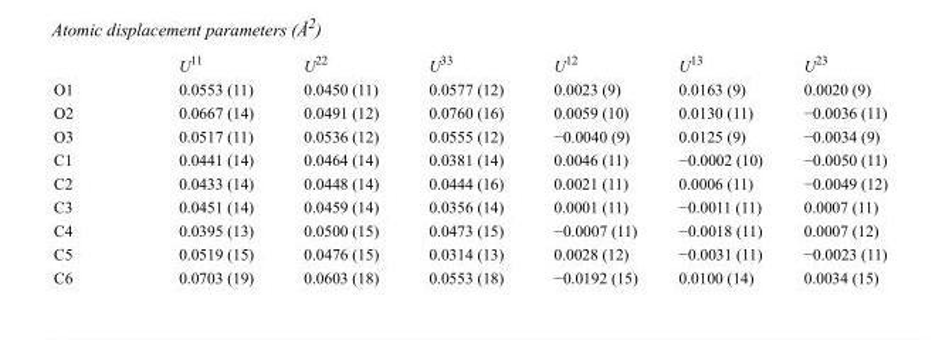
<table><thead><tr><td></td><td>U<sup>11</sup></td><td>U<sup>22</sup></td><td>U<sup>33</sup></td><td>U<sup>12</sup></td><td>U<sup>13</sup></td><td>U<sup>23</sup></td></tr></thead><tbody><tr><td>O1</td><td>0.0553 (11)</td><td>0.0450 (11)</td><td>0.0577 (12)</td><td>0.0023 (9)</td><td>0.0163 (9)</td><td>0.0020 (9)</td></tr><tr><td>O2</td><td>0.0667 (14)</td><td>0.0491 (12)</td><td>0.0760 (16)</td><td>0.0059 (10)</td><td>0.0130 (11)</td><td>−0.0036 (11)</td></tr><tr><td>O3</td><td>0.0517 (11)</td><td>0.0536 (12)</td><td>0.0555 (12)</td><td>−0.0040 (9)</td><td>0.0125 (9)</td><td>−0.0034 (9)</td></tr><tr><td>C1</td><td>0.0441 (14)</td><td>0.0464 (14)</td><td>0.0381 (14)</td><td>0.0046 (11)</td><td>−0.0002 (10)</td><td>−0.0050 (11)</td></tr><tr><td>C2</td><td>0.0433 (14)</td><td>0.0448 (14)</td><td>0.0444 (16)</td><td>0.0021 (11)</td><td>0.0006 (11)</td><td>−0.0049 (12)</td></tr><tr><td>C3</td><td>0.0451 (14)</td><td>0.0459 (14)</td><td>0.0356 (14)</td><td>0.0001 (11)</td><td>−0.0011 (11)</td><td>0.0007 (11)</td></tr><tr><td>C4</td><td>0.0395 (13)</td><td>0.0500 (15)</td><td>0.0473 (15)</td><td>−0.0007 (11)</td><td>−0.0018 (11)</td><td>0.0007 (12)</td></tr><tr><td>C5</td><td>0.0519 (15)</td><td>0.0476 (15)</td><td>0.0314 (13)</td><td>0.0028 (12)</td><td>−0.0031 (11)</td><td>−0.0023 (11)</td></tr><tr><td>C6</td><td>0.0703 (19)</td><td>0.0603 (18)</td><td>0.0553 (18)</td><td>−0.0192 (15)</td><td>0.0100 (14)</td><td>0.0034 (15)</td></tr></tbody></table>